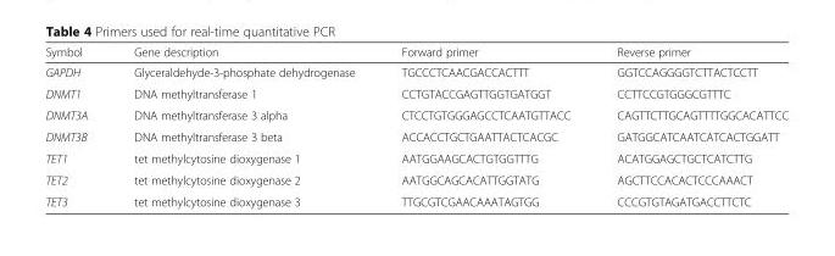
<table><thead><tr><td>Symbol</td><td>Gene description</td><td>Forward primer</td><td>Reverse primer</td></tr></thead><tbody><tr><td>GAPDH</td><td>Glyceraldehyde-3-phosphate dehydrogenase</td><td>TGCCCTCAACGACCACTTT</td><td>GGTCCAGGGGTCTTACTCCTT</td></tr><tr><td>DNMT1</td><td>DNA methyltransferase 1</td><td>CCTGTACCGAGTTGGTGATGGT</td><td>CCTTCCGTGGGCGTTTC</td></tr><tr><td>DNMT3A</td><td>DNA methyltransferase 3 alpha</td><td>CTCCTGTGGGAGCCTCAATGTTACC</td><td>CAGTTCTTGCAGTTTTGGCACATTCC</td></tr><tr><td>DNMT3B</td><td>DNA methyltransferase 3 beta</td><td>ACCACCTGCTGAATTACTCACGC</td><td>GATGGCATCAATCATCACTGGATT</td></tr><tr><td>TET1</td><td>tet methylcytosine dioxygenase 1</td><td>AATGGAAGCACTGTGGTTTG</td><td>ACATGGAGCTGCTCATCTTG</td></tr><tr><td>TET2</td><td>tet methylcytosine dioxygenase 2</td><td>AATGGCAGCACATTGGTATG</td><td>AGCTTCCACACTCCCAAACT</td></tr><tr><td>TET3</td><td>tet methylcytosine dioxygenase 3</td><td>TTGCGTCGAACAAATAGTGG</td><td>CCCGTGTAGATGACCTTCTC</td></tr></tbody></table>